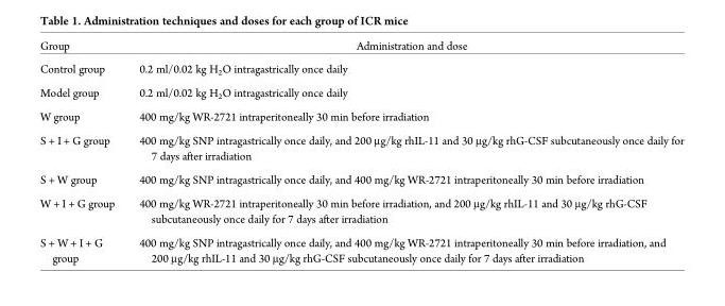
<table><thead><tr><td>Group</td><td>Administration and dose</td></tr></thead><tbody><tr><td>Control group</td><td>0.2 ml/0.02 kg H<sub>2</sub>O intragastrically once daily</td></tr><tr><td>Model group</td><td>0.2 ml/0.02 kg H<sub>2</sub>O intragastrically once daily</td></tr><tr><td>W group</td><td>400 mg/kg WR-2721 intraperitoneally 30 min before irradiation</td></tr><tr><td>S + I + G group</td><td>400 mg/kg SNP intragastrically once daily, and 200 μg/kg rhIL-11 and 30 μg/kg rhG-CSF subcutaneously once daily for 7 days after irradiation</td></tr><tr><td>S + W group</td><td>400 mg/kg SNP intragastrically once daily, and 400 mg/kg WR-2721 intraperitoneally 30 min before irradiation</td></tr><tr><td>W + I + G group</td><td>400 mg/kg WR-2721 intraperitoneally 30 min before irradiation, and 200 μg/kg rhIL-11 and 30 μg/kg rhG-CSF subcutaneously once daily for 7 days after irradiation</td></tr><tr><td>S + W + I + G group</td><td>400 mg/kg SNP intragastrically once daily, and 400 mg/kg WR-2721 intraperitoneally 30 min before irradiation, and 200 μg/kg rhIL-11 and 30 μg/kg rhG-CSF subcutaneously once daily for 7 days after irradiation</td></tr></tbody></table>